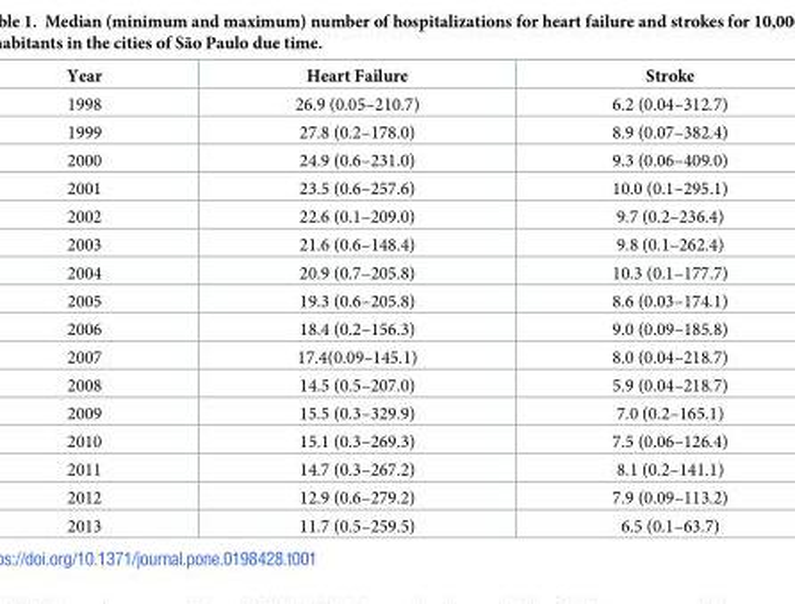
<table><thead><tr><td>Year</td><td>Heart Failure</td><td>Stroke</td></tr></thead><tbody><tr><td>1998</td><td>26.9 (0.05–210.7)</td><td>6.2 (0.04–312.7)</td></tr><tr><td>1999</td><td>27.8 (0.2–178.0)</td><td>8.9 (0.07–382.4)</td></tr><tr><td>2000</td><td>24.9 (0.6–231.0)</td><td>9.3 (0.06–409.0)</td></tr><tr><td>2001</td><td>23.5 (0.6–257.6)</td><td>10.0 (0.1–295.1)</td></tr><tr><td>2002</td><td>22.6 (0.1–209.0)</td><td>9.7 (0.2–236.4)</td></tr><tr><td>2003</td><td>21.6 (0.6–148.4)</td><td>9.8 (0.1–262.4)</td></tr><tr><td>2004</td><td>20.9 (0.7–205.8)</td><td>10.3 (0.1–177.7)</td></tr><tr><td>2005</td><td>19.3 (0.6–205.8)</td><td>8.6 (0.03–174.1)</td></tr><tr><td>2006</td><td>18.4 (0.2–156.3)</td><td>9.0 (0.09–185.8)</td></tr><tr><td>2007</td><td>17.4(0.09–145.1)</td><td>8.0 (0.04–218.7)</td></tr><tr><td>2008</td><td>14.5 (0.5–207.0)</td><td>5.9 (0.04–218.7)</td></tr><tr><td>2009</td><td>15.5 (0.3–329.9)</td><td>7.0 (0.2–165.1)</td></tr><tr><td>2010</td><td>15.1 (0.3–269.3)</td><td>7.5 (0.06–126.4)</td></tr><tr><td>2011</td><td>14.7 (0.3–267.2)</td><td>8.1 (0.2–141.1)</td></tr><tr><td>2012</td><td>12.9 (0.6–279.2)</td><td>7.9 (0.09–113.2)</td></tr><tr><td>2013</td><td>11.7 (0.5–259.5)</td><td>6.5 (0.1–63.7)</td></tr></tbody></table>